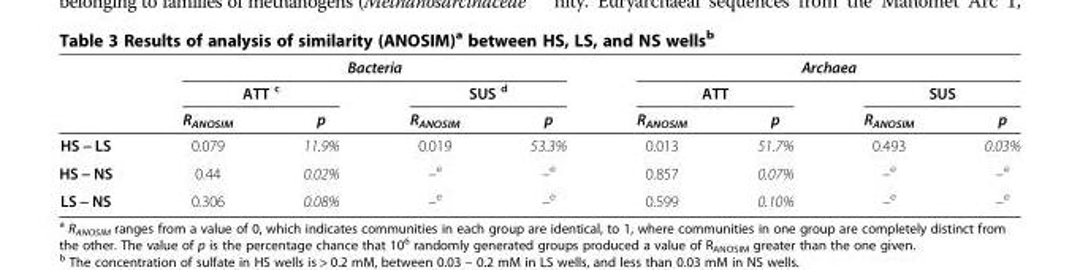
<table><thead><tr><td rowspan="3"></td><td colspan="4">Bacteria</td><td colspan="4">Archaea</td></tr><tr><td colspan="2">ATT <sup>c</sup></td><td colspan="2">SUS <sup>d</sup></td><td colspan="2">ATT</td><td colspan="2">SUS</td></tr><tr><td>R<sub>ANOSIM</sub></td><td>p</td><td>R<sub>ANOSIM</sub></td><td>p</td><td>R<sub>ANOSIM</sub></td><td>p</td><td>R<sub>ANOSIM</sub></td><td>p</td></tr></thead><tbody><tr><td>HS − LS</td><td>0.079</td><td>11.9%</td><td>0.019</td><td>53.3%</td><td>0.013</td><td>51.7%</td><td>0.493</td><td>0.03%</td></tr><tr><td>HS − NS</td><td>0.44</td><td>0.02%</td><td>–<sup>e</sup></td><td>–<sup>e</sup></td><td>0.857</td><td>0.07%</td><td>–<sup>e</sup></td><td>–<sup>e</sup></td></tr><tr><td>LS − NS</td><td>0.306</td><td>0.08%</td><td>–<sup>e</sup></td><td>–<sup>e</sup></td><td>0.599</td><td>0.10%</td><td>–<sup>e</sup></td><td>–<sup>e</sup></td></tr></tbody></table>